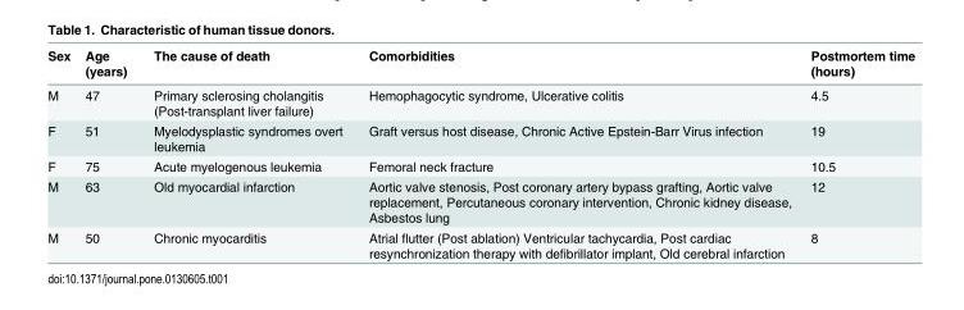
<table><thead><tr><td>Sex</td><td>Age (years)</td><td>The cause of death</td><td>Comorbidities</td><td>Postmortem time (hours)</td></tr></thead><tbody><tr><td>M</td><td>47</td><td>Primary sclerosing cholangitis (Post-transplant liver failure)</td><td>Hemophagocytic syndrome, Ulcerative colitis</td><td>4.5</td></tr><tr><td>F</td><td>51</td><td>Myelodysplastic syndromes overt leukemia</td><td>Graft versus host disease, Chronic Active Epstein-Barr Virus infection</td><td>19</td></tr><tr><td>F</td><td>75</td><td>Acute myelogenous leukemia</td><td>Femoral neck fracture</td><td>10.5</td></tr><tr><td>M</td><td>63</td><td>Old myocardial infarction</td><td>Aortic valve stenosis, Post coronary artery bypass grafting, Aortic valve replacement, Percutaneous coronary intervention, Chronic kidney disease, Asbestos lung</td><td>12</td></tr><tr><td>M</td><td>50</td><td>Chronic myocarditis</td><td>Atrial flutter (Post ablation) Ventricular tachycardia, Post cardiac resynchronization therapy with defibrillator implant, Old cerebral infarction</td><td>8</td></tr></tbody></table>